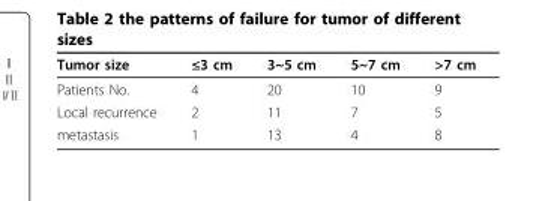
<table><thead><tr><td>Tumor size</td><td>≤3 cm</td><td>3~5 cm</td><td>5~7 cm</td><td>&gt;7 cm</td></tr></thead><tbody><tr><td>Patients No.</td><td>4</td><td>20</td><td>10</td><td>9</td></tr><tr><td>Local recurrence</td><td>2</td><td>11</td><td>7</td><td>5</td></tr><tr><td>metastasis</td><td>1</td><td>13</td><td>4</td><td>8</td></tr></tbody></table>